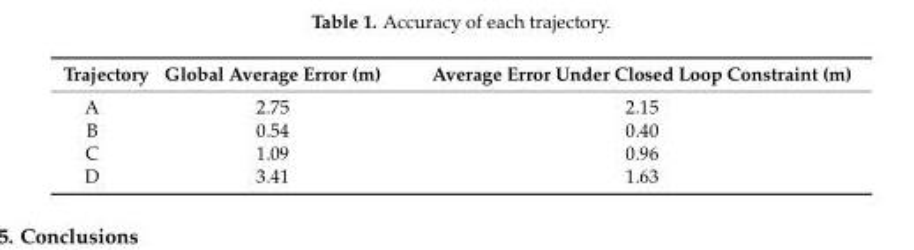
<table><thead><tr><td>Trajectory</td><td>Global Average Error (m)</td><td>Average Error Under Closed Loop Constraint (m)</td></tr></thead><tbody><tr><td>A</td><td>2.75</td><td>2.15</td></tr><tr><td>B</td><td>0.54</td><td>0.40</td></tr><tr><td>C</td><td>1.09</td><td>0.96</td></tr><tr><td>D</td><td>3.41</td><td>1.63</td></tr></tbody></table>